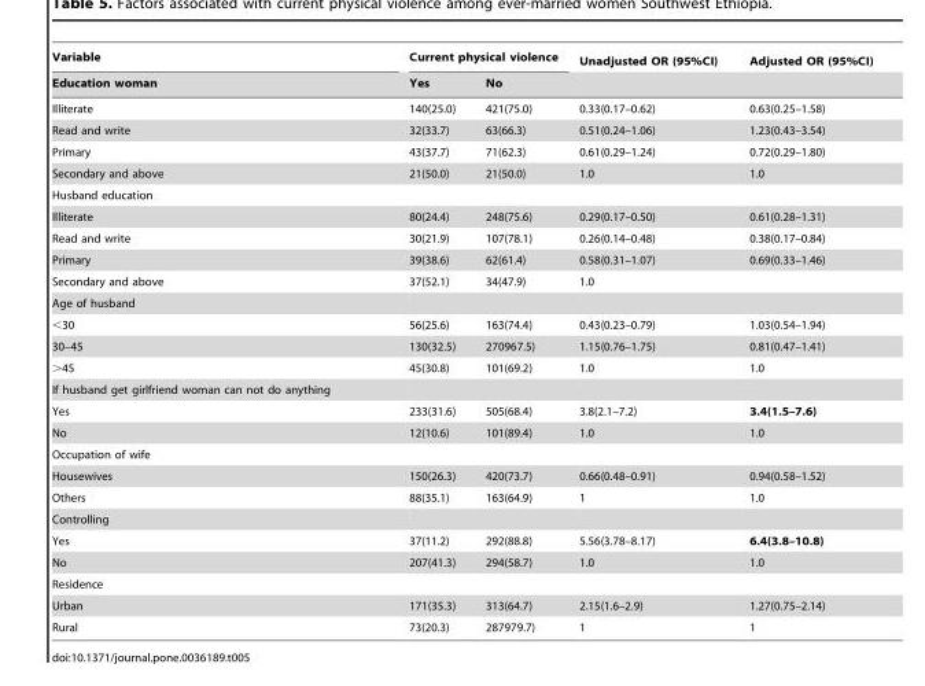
<table><thead><tr><td rowspan="2">Variable Education woman</td><td colspan="2">Current physical violence</td><td rowspan="2">Unadjusted OR (95%CI)</td><td rowspan="2">Adjusted OR (95%CI)</td></tr><tr><td>Yes</td><td>No</td></tr></thead><tbody><tr><td>Illiterate</td><td>140(25.0)</td><td>421(75.0)</td><td>0.33(0.17–0.62)</td><td>0.63(0.25–1.58)</td></tr><tr><td>Read and write</td><td>32(33.7)</td><td>63(66.3)</td><td>0.51(0.24–1.06)</td><td>1.23(0.43–3.54)</td></tr><tr><td>Primary</td><td>43(37.7)</td><td>71(62.3)</td><td>0.61(0.29–1.24)</td><td>0.72(0.29–1.80)</td></tr><tr><td>Secondary and above</td><td>21(50.0)</td><td>21(50.0)</td><td>1.0</td><td>1.0</td></tr><tr><td colspan="5">Husband education</td></tr><tr><td>Illiterate</td><td>80(24.4)</td><td>248(75.6)</td><td>0.29(0.17–0.50)</td><td>0.61(0.28–1.31)</td></tr><tr><td>Read and write</td><td>30(21.9)</td><td>107(78.1)</td><td>0.26(0.14–0.48)</td><td>0.38(0.17–0.84)</td></tr><tr><td>Primary</td><td>39(38.6)</td><td>62(61.4)</td><td>0.58(0.31–1.07)</td><td>0.69(0.33–1.46)</td></tr><tr><td>Secondary and above</td><td>37(52.1)</td><td>34(47.9)</td><td>1.0</td><td></td></tr><tr><td colspan="5">Age of husband</td></tr><tr><td>&lt;30</td><td>56(25.6)</td><td>163(74.4)</td><td>0.43(0.23–0.79)</td><td>1.03(0.54–1.94)</td></tr><tr><td>30–45</td><td>130(32.5)</td><td>270967.5)</td><td>1.15(0.76–1.75)</td><td>0.81(0.47–1.41)</td></tr><tr><td>&gt;45</td><td>45(30.8)</td><td>101(69.2)</td><td>1.0</td><td>1.0</td></tr><tr><td colspan="5">If husband get girlfriend woman can not do anything</td></tr><tr><td>Yes</td><td>233(31.6)</td><td>505(68.4)</td><td>3.8(2.1–7.2)</td><td>3.4(1.5–7.6)</td></tr><tr><td>No</td><td>12(10.6)</td><td>101(89.4)</td><td>1.0</td><td>1.0</td></tr><tr><td colspan="5">Occupation of wife</td></tr><tr><td>Housewives</td><td>150(26.3)</td><td>420(73.7)</td><td>0.66(0.48–0.91)</td><td>0.94(0.58–1.52)</td></tr><tr><td>Others</td><td>88(35.1)</td><td>163(64.9)</td><td>1</td><td>1.0</td></tr><tr><td colspan="5">Controlling</td></tr><tr><td>Yes</td><td>37(11.2)</td><td>292(88.8)</td><td>5.56(3.78–8.17)</td><td>6.4(3.8–10.8)</td></tr><tr><td>No</td><td>207(41.3)</td><td>294(58.7)</td><td>1.0</td><td>1.0</td></tr><tr><td colspan="5">Residence</td></tr><tr><td>Urban</td><td>171(35.3)</td><td>313(64.7)</td><td>2.15(1.6–2.9)</td><td>1.27(0.75–2.14)</td></tr><tr><td>Rural</td><td>73(20.3)</td><td>287979.7)</td><td>1</td><td>1</td></tr></tbody></table>